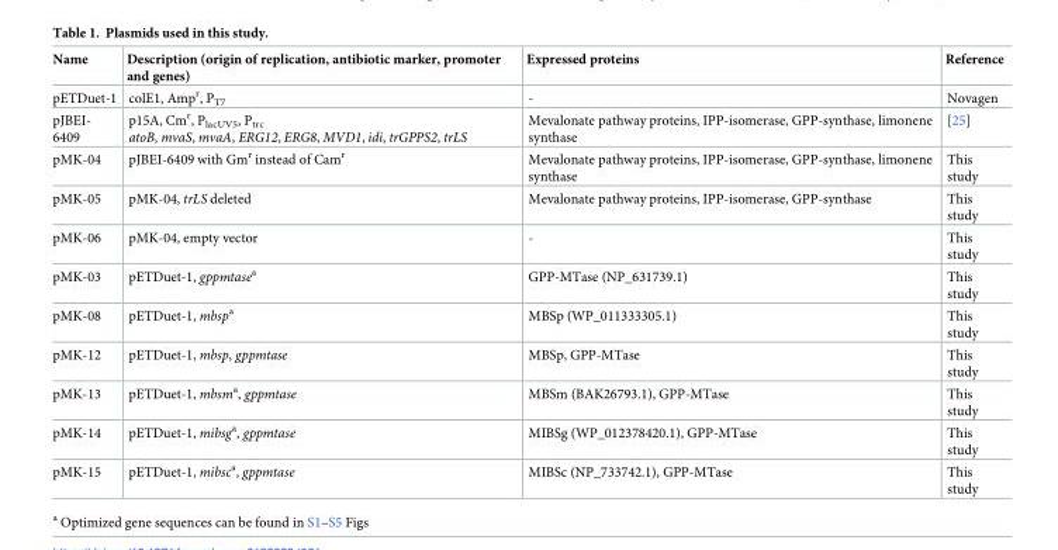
<table><thead><tr><td>Name</td><td>Description (origin of replication, antibiotic marker, promoter and genes)</td><td>Expressed proteins</td><td>Reference</td></tr></thead><tbody><tr><td>pETDuet-1</td><td>colE1, Amp<sup>r</sup>, P<sub>T7</sub></td><td>-</td><td>Novagen</td></tr><tr><td>pJBEI- 6409</td><td>p15A, Cm<sup>r</sup>, P<sub>lacUV5</sub>, P<sub>trc</sub> atoB, mvaS, mvaA, ERG12, ERG8, MVD1, idi, trGPPS2, trLS</td><td>Mevalonate pathway proteins, IPP-isomerase, GPP-synthase, limonene synthase</td><td>[25]</td></tr><tr><td>pMK-04</td><td>pJBEI-6409 with Gm<sup>r</sup> instead of Cam<sup>r</sup></td><td>Mevalonate pathway proteins, IPP-isomerase, GPP-synthase, limonene synthase</td><td>This study</td></tr><tr><td>pMK-05</td><td>pMK-04, trLS deleted</td><td>Mevalonate pathway proteins, IPP-isomerase, GPP-synthase</td><td>This study</td></tr><tr><td>pMK-06</td><td>pMK-04, empty vector</td><td>-</td><td>This study</td></tr><tr><td>pMK-03</td><td>pETDuet-1, gppmtase<sup>a</sup></td><td>GPP-MTase (NP_631739.1)</td><td>This study</td></tr><tr><td>pMK-08</td><td>pETDuet-1, mbsp<sup>a</sup></td><td>MBSp (WP_011333305.1)</td><td>This study</td></tr><tr><td>pMK-12</td><td>pETDuet-1, mbsp, gppmtase</td><td>MBSp, GPP-MTase</td><td>This study</td></tr><tr><td>pMK-13</td><td>pETDuet-1, mbsm<sup>a</sup>, gppmtase</td><td>MBSm (BAK26793.1), GPP-MTase</td><td>This study</td></tr><tr><td>pMK-14</td><td>pETDuet-1, mibsg<sup>a</sup>, gppmtase</td><td>MIBSg (WP_012378420.1), GPP-MTase</td><td>This study</td></tr><tr><td>pMK-15</td><td>pETDuet-1, mibsc<sup>a</sup>, gppmtase</td><td>MIBSc (NP_733742.1), GPP-MTase</td><td>This study</td></tr></tbody></table>